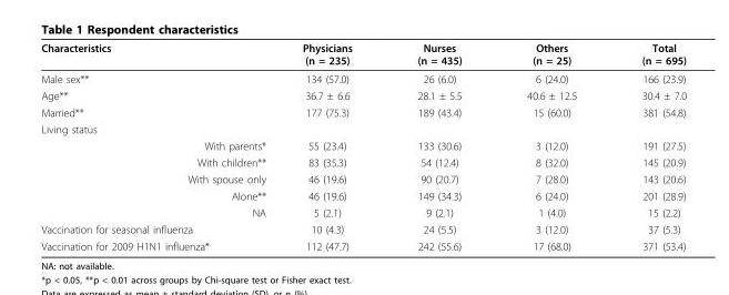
<table><thead><tr><td>Characteristics</td><td>Physicians (n = 235)</td><td>Nurses (n = 435)</td><td>Others (n = 25)</td><td>Total (n = 695)</td></tr></thead><tbody><tr><td>Male sex**</td><td>134 (57.0)</td><td>26 (6.0)</td><td>6 (24.0)</td><td>166 (23.9)</td></tr><tr><td>Age**</td><td>36.7 ± 6.6</td><td>28.1 ± 5.5</td><td>40.6 ± 12.5</td><td>30.4 ± 7.0</td></tr><tr><td>Married**</td><td>177 (75.3)</td><td>189 (43.4)</td><td>15 (60.0)</td><td>381 (54.8)</td></tr><tr><td colspan="5">Living status</td></tr><tr><td>With parents*</td><td>55 (23.4)</td><td>133 (30.6)</td><td>3 (12.0)</td><td>191 (27.5)</td></tr><tr><td>With children**</td><td>83 (35.3)</td><td>54 (12.4)</td><td>8 (32.0)</td><td>145 (20.9)</td></tr><tr><td>With spouse only</td><td>46 (19.6)</td><td>90 (20.7)</td><td>7 (28.0)</td><td>143 (20.6)</td></tr><tr><td>Alone**</td><td>46 (19.6)</td><td>149 (34.3)</td><td>6 (24.0)</td><td>201 (28.9)</td></tr><tr><td>NA</td><td>5 (2.1)</td><td>9 (2.1)</td><td>1 (4.0)</td><td>15 (2.2)</td></tr><tr><td>Vaccination for seasonal influenza</td><td>10 (4.3)</td><td>24 (5.5)</td><td>3 (12.0)</td><td>37 (5.3)</td></tr><tr><td>Vaccination for 2009 H1N1 influenza*</td><td>112 (47.7)</td><td>242 (55.6)</td><td>17 (68.0)</td><td>371 (53.4)</td></tr></tbody></table>